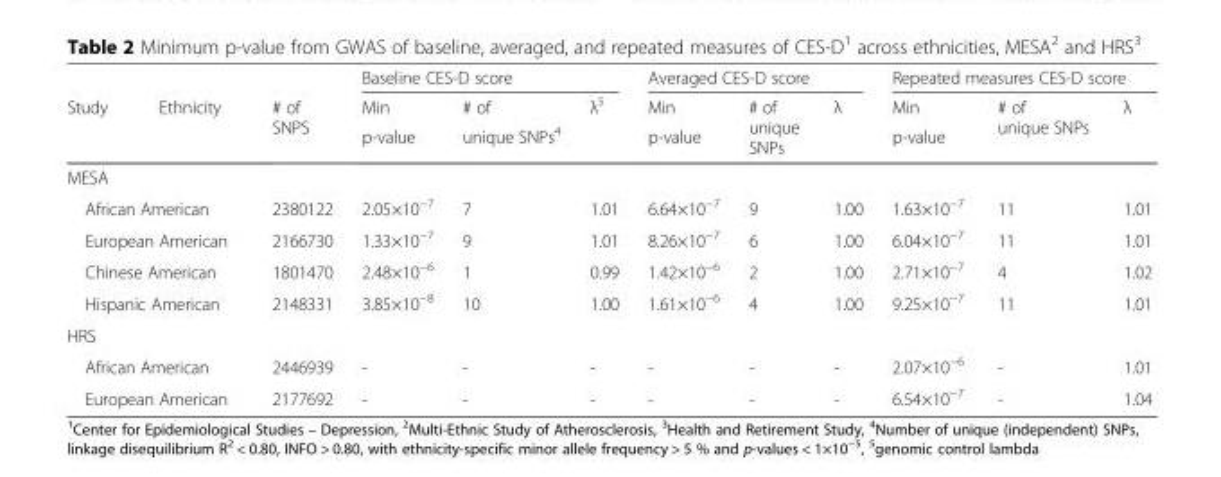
<table><thead><tr><td rowspan="3">Study</td><td rowspan="3">Ethnicity</td><td rowspan="3"># of SNPS</td><td colspan="3">Baseline CES-D score</td><td colspan="3">Averaged CES-D score</td><td colspan="3">Repeated measures CES-D score</td></tr><tr><td rowspan="2">Min p-value</td><td rowspan="2"># of unique SNPs<sup>4</sup></td><td rowspan="2">λ<sup>5</sup></td><td rowspan="2">Min p-value</td><td rowspan="2"># of unique SNPs</td><td rowspan="2">λ</td><td rowspan="2">Min p-value</td><td rowspan="2"># of unique SNPs</td><td rowspan="2">λ</td></tr><tr></tr></thead><tbody><tr><td colspan="12">MESA</td></tr><tr><td colspan="2">African American</td><td>2380122</td><td>2.05×10<sup>−7</sup></td><td>7</td><td>1.01</td><td>6.64×10<sup>−7</sup></td><td>9</td><td>1.00</td><td>1.63×10<sup>−7</sup></td><td>11</td><td>1.01</td></tr><tr><td colspan="2">European American</td><td>2166730</td><td>1.33×10<sup>−7</sup></td><td>9</td><td>1.01</td><td>8.26×10<sup>−7</sup></td><td>6</td><td>1.00</td><td>6.04×10<sup>−7</sup></td><td>11</td><td>1.01</td></tr><tr><td colspan="2">Chinese American</td><td>1801470</td><td>2.48×10<sup>−6</sup></td><td>1</td><td>0.99</td><td>1.42×10<sup>−6</sup></td><td>2</td><td>1.00</td><td>2.71×10<sup>−7</sup></td><td>4</td><td>1.02</td></tr><tr><td colspan="2">Hispanic American</td><td>2148331</td><td>3.85×10<sup>−8</sup></td><td>10</td><td>1.00</td><td>1.61×10<sup>−6</sup></td><td>4</td><td>1.00</td><td>9.25×10<sup>−7</sup></td><td>11</td><td>1.01</td></tr><tr><td colspan="12">HRS</td></tr><tr><td colspan="2">African American</td><td>2446939</td><td>-</td><td>-</td><td>-</td><td>-</td><td>-</td><td>-</td><td>2.07×10<sup>−6</sup></td><td>-</td><td>1.01</td></tr><tr><td colspan="2">European American</td><td>2177692</td><td>-</td><td>-</td><td>-</td><td>-</td><td>-</td><td>-</td><td>6.54×10<sup>−7</sup></td><td>-</td><td>1.04</td></tr></tbody></table>